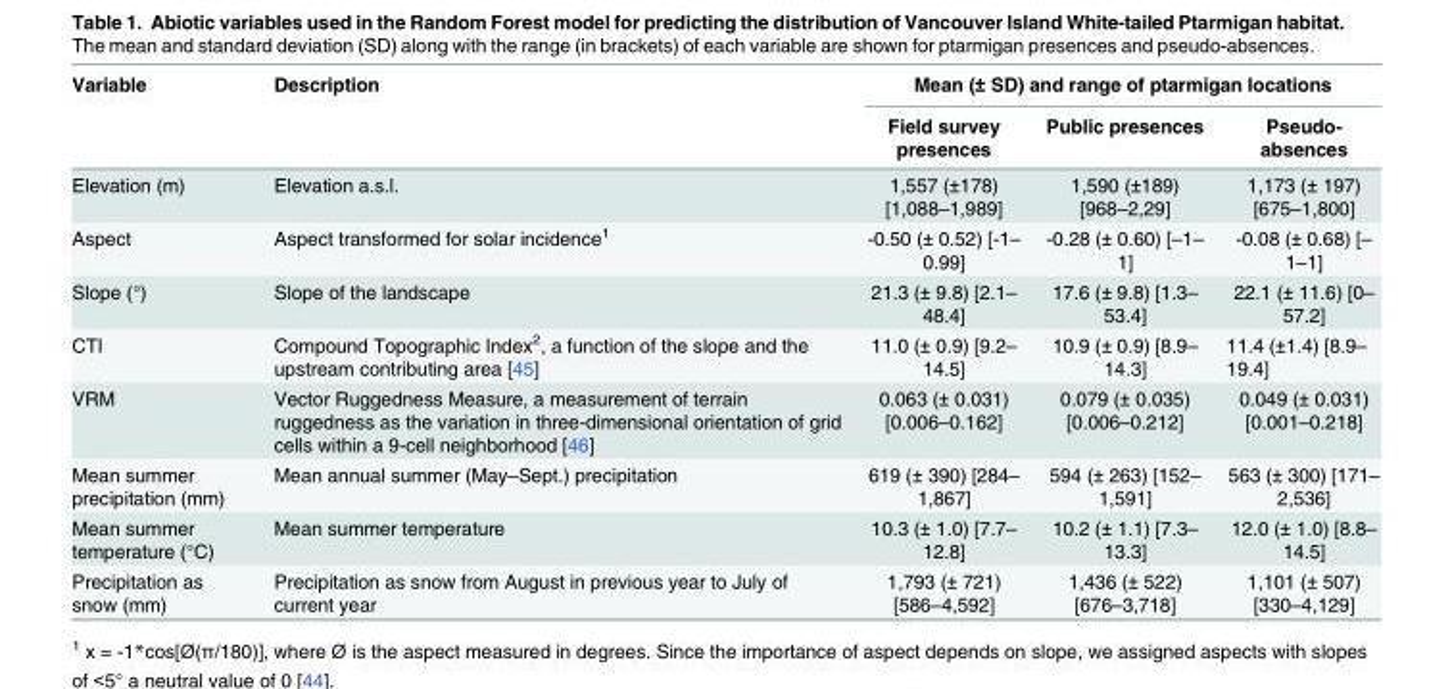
<table><thead><tr><td rowspan="2">Variable</td><td rowspan="2">Description</td><td colspan="3">Mean (± SD) and range of ptarmigan locations</td></tr><tr><td>Field survey presences</td><td>Public presences</td><td>Pseudo- absences</td></tr></thead><tbody><tr><td>Elevation (m)</td><td>Elevation a.s.l.</td><td>1,557 (±178) [1,088–1,989]</td><td>1,590 (±189) [968–2,29]</td><td>1,173 (± 197) [675–1,800]</td></tr><tr><td>Aspect</td><td>Aspect transformed for solar incidence<sup>1</sup></td><td>-0.50 (± 0.52) [-1– 0.99]</td><td>-0.28 (± 0.60) [–1– 1]</td><td>-0.08 (± 0.68) [– 1–1]</td></tr><tr><td>Slope (°)</td><td>Slope of the landscape</td><td>21.3 (± 9.8) [2.1– 48.4]</td><td>17.6 (± 9.8) [1.3– 53.4]</td><td>22.1 (± 11.6) [0– 57.2]</td></tr><tr><td>CTI</td><td>Compound Topographic Index<sup>2</sup>, a function of the slope and the upstream contributing area [45]</td><td>11.0 (± 0.9) [9.2– 14.5]</td><td>10.9 (± 0.9) [8.9– 14.3]</td><td>11.4 (±1.4) [8.9– 19.4]</td></tr><tr><td>VRM</td><td>Vector Ruggedness Measure, a measurement of terrain ruggedness as the variation in three-dimensional orientation of grid cells within a 9-cell neighborhood [46]</td><td>0.063 (± 0.031) [0.006–0.162]</td><td>0.079 (± 0.035) [0.006–0.212]</td><td>0.049 (± 0.031) [0.001–0.218]</td></tr><tr><td>Mean summer precipitation (mm)</td><td>Mean annual summer (May–Sept.) precipitation</td><td>619 (± 390) [284– 1,867]</td><td>594 (± 263) [152– 1,591]</td><td>563 (± 300) [171– 2,536]</td></tr><tr><td>Mean summer temperature (°C)</td><td>Mean summer temperature</td><td>10.3 (± 1.0) [7.7– 12.8]</td><td>10.2 (± 1.1) [7.3– 13.3]</td><td>12.0 (± 1.0) [8.8– 14.5]</td></tr><tr><td>Precipitation as snow (mm)</td><td>Precipitation as snow from August in previous year to July of current year</td><td>1,793 (± 721) [586–4,592]</td><td>1,436 (± 522) [676–3,718]</td><td>1,101 (± 507) [330–4,129]</td></tr></tbody></table>